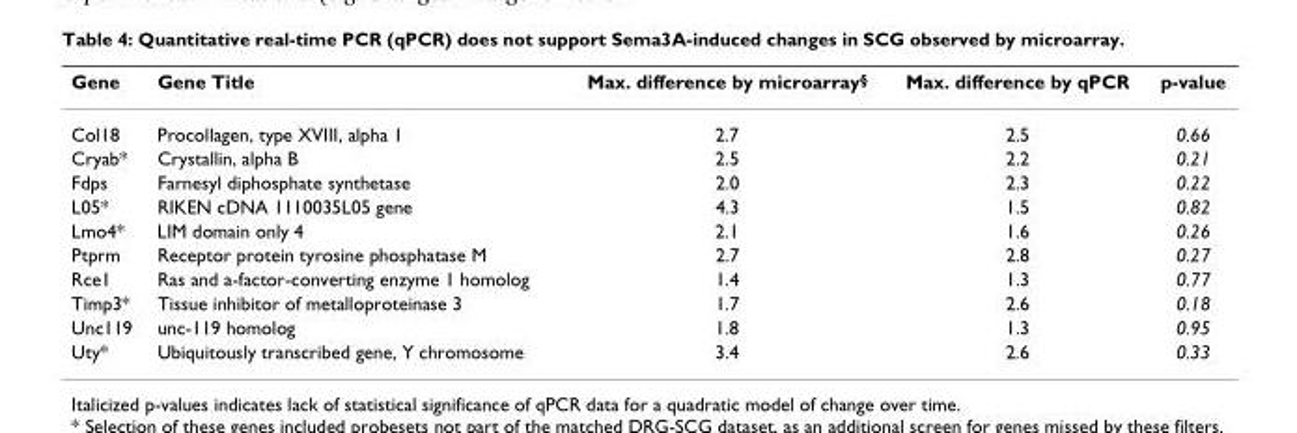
<table><thead><tr><td>Gene</td><td>Gene Title</td><td>Max. difference by microarray<sup>§</sup></td><td>Max. difference by qPCR</td><td>p-value</td></tr></thead><tbody><tr><td>Col18</td><td>Procollagen, type XVIII, alpha 1</td><td>2.7</td><td>2.5</td><td>0.66</td></tr><tr><td>Cryab*</td><td>Crystallin, alpha B</td><td>2.5</td><td>2.2</td><td>0.21</td></tr><tr><td>Fdps</td><td>Farnesyl diphosphate synthetase</td><td>2.0</td><td>2.3</td><td>0.22</td></tr><tr><td>L05*</td><td>RIKEN cDNA 1110035L05 gene</td><td>4.3</td><td>1.5</td><td>0.82</td></tr><tr><td>Lmo4*</td><td>LIM domain only 4</td><td>2.1</td><td>1.6</td><td>0.26</td></tr><tr><td>Ptprm</td><td>Receptor protein tyrosine phosphatase M</td><td>2.7</td><td>2.8</td><td>0.27</td></tr><tr><td>Rce1</td><td>Ras and a-factor-converting enzyme 1 homolog</td><td>1.4</td><td>1.3</td><td>0.77</td></tr><tr><td>Timp3*</td><td>Tissue inhibitor of metalloproteinase 3</td><td>1.7</td><td>2.6</td><td>0.18</td></tr><tr><td>Unc119</td><td>unc-119 homolog</td><td>1.8</td><td>1.3</td><td>0.95</td></tr><tr><td>Uty*</td><td>Ubiquitously transcribed gene, Y chromosome</td><td>3.4</td><td>2.6</td><td>0.33</td></tr></tbody></table>